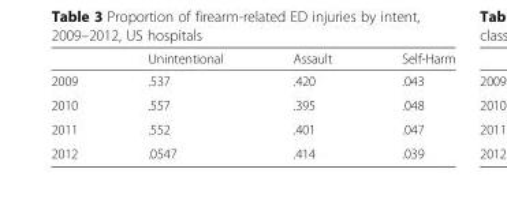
<table><thead><tr><td></td><td>Unintentional</td><td>Assault</td><td>Self-Harm</td></tr></thead><tbody><tr><td>2009</td><td>.537</td><td>.420</td><td>.043</td></tr><tr><td>2010</td><td>.557</td><td>.395</td><td>.048</td></tr><tr><td>2011</td><td>.552</td><td>.401</td><td>.047</td></tr><tr><td>2012</td><td>.0547</td><td>.414</td><td>.039</td></tr></tbody></table>